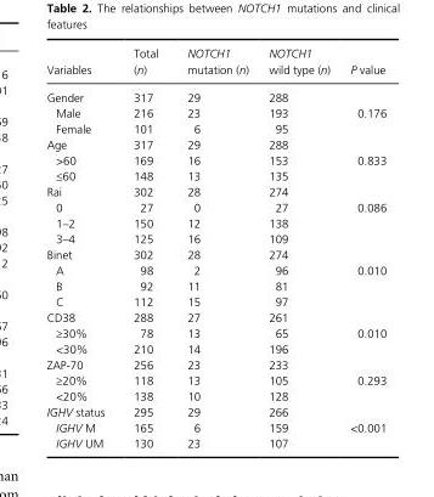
<table><thead><tr><td>Variables</td><td>Total (n)</td><td>NOTCH1 mutation (n)</td><td>NOTCH1 wild type (n)</td><td>P value</td></tr></thead><tbody><tr><td>Gender</td><td>317</td><td>29</td><td>288</td><td></td></tr><tr><td>Male</td><td>216</td><td>23</td><td>193</td><td>0.176</td></tr><tr><td>Female</td><td>101</td><td>6</td><td>95</td><td></td></tr><tr><td>Age</td><td>317</td><td>29</td><td>288</td><td></td></tr><tr><td>&gt;60</td><td>169</td><td>16</td><td>153</td><td>0.833</td></tr><tr><td>≤60</td><td>148</td><td>13</td><td>135</td><td></td></tr><tr><td>Rai</td><td>302</td><td>28</td><td>274</td><td></td></tr><tr><td>0</td><td>27</td><td>0</td><td>27</td><td>0.086</td></tr><tr><td>1–2</td><td>150</td><td>12</td><td>138</td><td></td></tr><tr><td>3–4</td><td>125</td><td>16</td><td>109</td><td></td></tr><tr><td>Binet</td><td>302</td><td>28</td><td>274</td><td></td></tr><tr><td>A</td><td>98</td><td>2</td><td>96</td><td>0.010</td></tr><tr><td>B</td><td>92</td><td>11</td><td>81</td><td></td></tr><tr><td>C</td><td>112</td><td>15</td><td>97</td><td></td></tr><tr><td>CD38</td><td>288</td><td>27</td><td>261</td><td></td></tr><tr><td>≥30%</td><td>78</td><td>13</td><td>65</td><td>0.010</td></tr><tr><td>&lt;30%</td><td>210</td><td>14</td><td>196</td><td></td></tr><tr><td>ZAP- 70</td><td>256</td><td>23</td><td>233</td><td></td></tr><tr><td>≥20%</td><td>118</td><td>13</td><td>105</td><td>0.293</td></tr><tr><td>&lt;20%</td><td>138</td><td>10</td><td>128</td><td></td></tr><tr><td>IGHV status</td><td>295</td><td>29</td><td>266</td><td></td></tr><tr><td>IGHV M</td><td>165</td><td>6</td><td>159</td><td>&lt;0.001</td></tr><tr><td>IGHV UM</td><td>130</td><td>23</td><td>107</td><td></td></tr></tbody></table>